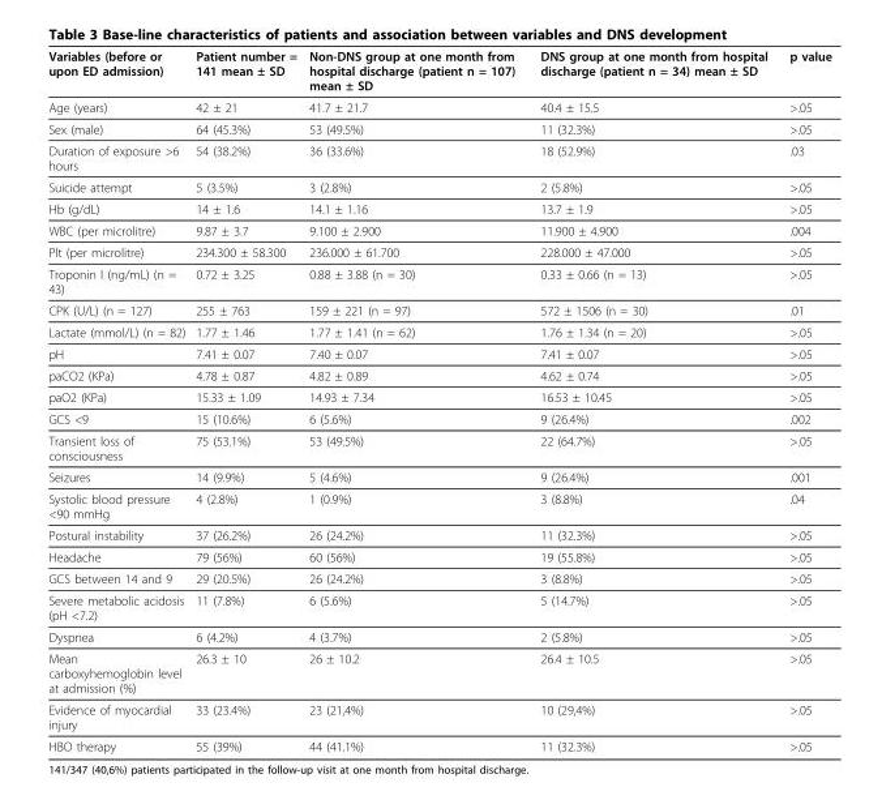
<table><thead><tr><td>Variables (before or upon ED admission)</td><td>Patient number = 141 mean ± SD</td><td>Non-DNS group at one month from hospital discharge (patient n = 107) mean ± SD</td><td>DNS group at one month from hospital discharge (patient n = 34) mean ± SD</td><td>p value</td></tr></thead><tbody><tr><td>Age (years)</td><td>42 ± 21</td><td>41.7 ± 21.7</td><td>40.4 ± 15.5</td><td>&gt;.05</td></tr><tr><td>Sex (male)</td><td>64 (45.3%)</td><td>53 (49.5%)</td><td>11 (32.3%)</td><td>&gt;.05</td></tr><tr><td>Duration of exposure &gt;6 hours</td><td>54 (38.2%)</td><td>36 (33.6%)</td><td>18 (52.9%)</td><td>.03</td></tr><tr><td>Suicide attempt</td><td>5 (3.5%)</td><td>3 (2.8%)</td><td>2 (5.8%)</td><td>&gt;.05</td></tr><tr><td>Hb (g/dL)</td><td>14 ± 1.6</td><td>14.1 ± 1.16</td><td>13.7 ± 1.9</td><td>&gt;.05</td></tr><tr><td>WBC (per microlitre)</td><td>9.87 ± 3.7</td><td>9.100 ± 2.900</td><td>11.900 ± 4.900</td><td>.004</td></tr><tr><td>Plt (per microlitre)</td><td>234.300 ± 58.300</td><td>236.000 ± 61.700</td><td>228.000 ± 47.000</td><td>&gt;.05</td></tr><tr><td>Troponin I (ng/mL) (n = 43)</td><td>0.72 ± 3.25</td><td>0.88 ± 3.88 (n = 30)</td><td>0.33 ± 0.66 (n = 13)</td><td>&gt;.05</td></tr><tr><td>CPK (U/L) (n = 127)</td><td>255 ± 763</td><td>159 ± 221 (n = 97)</td><td>572 ± 1506 (n = 30)</td><td>.01</td></tr><tr><td>Lactate (mmol/L) (n = 82)</td><td>1.77 ± 1.46</td><td>1.77 ± 1.41 (n = 62)</td><td>1.76 ± 1.34 (n = 20)</td><td>&gt;.05</td></tr><tr><td>pH</td><td>7.41 ± 0.07</td><td>7.40 ± 0.07</td><td>7.41 ± 0.07</td><td>&gt;.05</td></tr><tr><td>paCO2 (KPa)</td><td>4.78 ± 0.87</td><td>4.82 ± 0.89</td><td>4.62 ± 0.74</td><td>&gt;.05</td></tr><tr><td>paO2 (KPa)</td><td>15.33 ± 1.09</td><td>14.93 ± 7.34</td><td>16.53 ± 10.45</td><td>&gt;.05</td></tr><tr><td>GCS &lt;9</td><td>15 (10.6%)</td><td>6 (5.6%)</td><td>9 (26.4%)</td><td>.002</td></tr><tr><td>Transient loss of consciousness</td><td>75 (53.1%)</td><td>53 (49.5%)</td><td>22 (64.7%)</td><td>&gt;.05</td></tr><tr><td>Seizures</td><td>14 (9.9%)</td><td>5 (4.6%)</td><td>9 (26.4%)</td><td>.001</td></tr><tr><td>Systolic blood pressure &lt;90 mmHg</td><td>4 (2.8%)</td><td>1 (0.9%)</td><td>3 (8.8%)</td><td>.04</td></tr><tr><td>Postural instability</td><td>37 (26.2%)</td><td>26 (24.2%)</td><td>11 (32.3%)</td><td>&gt;.05</td></tr><tr><td>Headache</td><td>79 (56%)</td><td>60 (56%)</td><td>19 (55.8%)</td><td>&gt;.05</td></tr><tr><td>GCS between 14 and 9</td><td>29 (20.5%)</td><td>26 (24.2%)</td><td>3 (8.8%)</td><td>&gt;.05</td></tr><tr><td>Severe metabolic acidosis (pH &lt;7.2)</td><td>11 (7.8%)</td><td>6 (5.6%)</td><td>5 (14.7%)</td><td>&gt;.05</td></tr><tr><td>Dyspnea</td><td>6 (4.2%)</td><td>4 (3.7%)</td><td>2 (5.8%)</td><td>&gt;.05</td></tr><tr><td>Mean carboxyhemoglobin level at admission (%)</td><td>26.3 ± 10</td><td>26 ± 10.2</td><td>26.4 ± 10.5</td><td>&gt;.05</td></tr><tr><td>Evidence of myocardial injury</td><td>33 (23.4%)</td><td>23 (21,4%)</td><td>10 (29,4%)</td><td>&gt;.05</td></tr><tr><td>HBO therapy</td><td>55 (39%)</td><td>44 (41.1%)</td><td>11 (32.3%)</td><td>&gt;.05</td></tr></tbody></table>